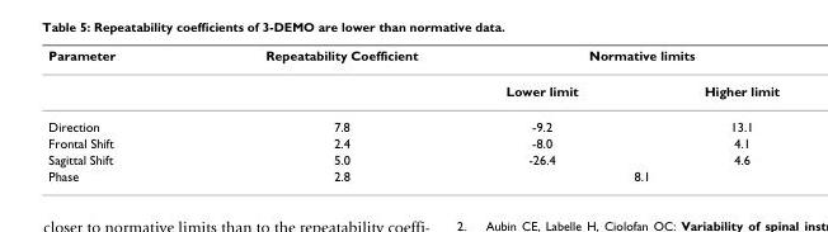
<table><thead><tr><td rowspan="2">Parameter</td><td rowspan="2">Repeatability Coefficient</td><td colspan="2">Normative limits</td></tr><tr><td>Lower limit</td><td>Higher limit</td></tr></thead><tbody><tr><td>Direction</td><td>7.8</td><td>-9.2</td><td>13.1</td></tr><tr><td>Frontal Shift</td><td>2.4</td><td>-8.0</td><td>4.1</td></tr><tr><td>Sagittal Shift</td><td>5.0</td><td>-26.4</td><td>4.6</td></tr><tr><td>Phase</td><td>2.8</td><td colspan="2">8.1</td></tr></tbody></table>